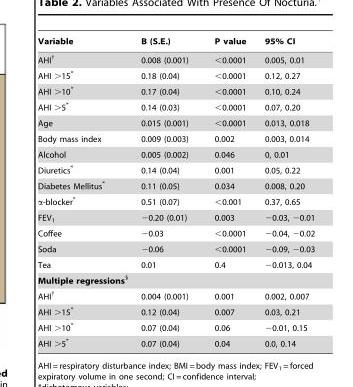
<table><thead><tr><td>Variable</td><td>B (S.E.)</td><td>P value</td><td>95% CI</td></tr></thead><tbody><tr><td>AHI†</td><td>0.008 (0.001)</td><td>&lt;0.0001</td><td>0.005, 0.01</td></tr><tr><td>AHI &gt;15*</td><td>0.18 (0.04)</td><td>&lt;0.0001</td><td>0.12, 0.27</td></tr><tr><td>AHI &gt;10*</td><td>0.17 (0.04)</td><td>&lt;0.0001</td><td>0.10, 0.24</td></tr><tr><td>AHI &gt;5*</td><td>0.14 (0.03)</td><td>&lt;0.0001</td><td>0.07, 0.20</td></tr><tr><td>Age</td><td>0.015 (0.001)</td><td>&lt;0.0001</td><td>0.013, 0.018</td></tr><tr><td>Body mass index</td><td>0.009 (0.003)</td><td>0.002</td><td>0.003, 0.014</td></tr><tr><td>Alcohol</td><td>0.005 (0.002)</td><td>0.046</td><td>0, 0.01</td></tr><tr><td>Diuretics*</td><td>0.14 (0.04)</td><td>0.001</td><td>0.05, 0.22</td></tr><tr><td>Diabetes Mellitus*</td><td>0.11 (0.05)</td><td>0.034</td><td>0.008, 0.20</td></tr><tr><td>α-blocker*</td><td>0.51 (0.07)</td><td>&lt;0.001</td><td>0.37, 0.65</td></tr><tr><td>FEV<sub>1</sub></td><td>−0.20 (0.01)</td><td>0.003</td><td>−0.03, −0.01</td></tr><tr><td>Coffee</td><td>−0.03</td><td>&lt;0.0001</td><td>−0.04, −0.02</td></tr><tr><td>Soda</td><td>−0.06</td><td>&lt;0.0001</td><td>−0.09, −0.03</td></tr><tr><td>Tea</td><td>0.01</td><td>0.4</td><td>−0.013, 0.04</td></tr><tr><td colspan="4">Multiple regressions§</td></tr><tr><td>AHI†</td><td>0.004 (0.001)</td><td>0.001</td><td>0.002, 0.007</td></tr><tr><td>AHI &gt;15*</td><td>0.12 (0.04)</td><td>0.007</td><td>0.03, 0.21</td></tr><tr><td>AHI &gt;10*</td><td>0.07 (0.04)</td><td>0.06</td><td>−0.01, 0.15</td></tr><tr><td>AHI &gt;5*</td><td>0.07 (0.04)</td><td>0.04</td><td>0.0, 0.14</td></tr></tbody></table>